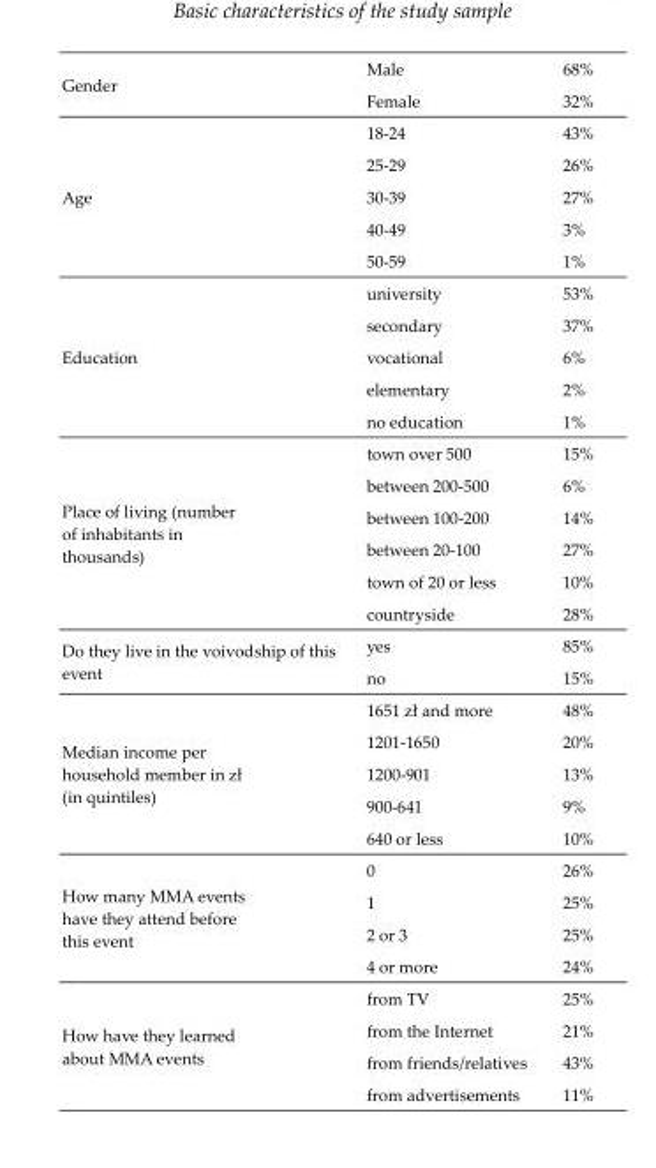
<table><tbody><tr><td rowspan="2">Gender</td><td>Male</td><td>68%</td></tr><tr><td>Female</td><td>32%</td></tr><tr><td rowspan="5">Age</td><td>18-24</td><td>43%</td></tr><tr><td>25-29</td><td>26%</td></tr><tr><td>30-39</td><td>27%</td></tr><tr><td>40-49</td><td>3%</td></tr><tr><td>50-59</td><td>1%</td></tr><tr><td rowspan="5">Education</td><td>university</td><td>53%</td></tr><tr><td>secondary</td><td>37%</td></tr><tr><td>vocational</td><td>6%</td></tr><tr><td>elementary</td><td>2%</td></tr><tr><td>no education</td><td>1%</td></tr><tr><td rowspan="6">Place of living (number of inhabitants in thousands)</td><td>town over 500</td><td>15%</td></tr><tr><td>between 200-500</td><td>6%</td></tr><tr><td>between 100-200</td><td>14%</td></tr><tr><td>between 20-100</td><td>27%</td></tr><tr><td>town of 20 or less</td><td>10%</td></tr><tr><td>countryside</td><td>28%</td></tr><tr><td rowspan="2">Do they live in the voivodship of this event</td><td>yes</td><td>85%</td></tr><tr><td>no</td><td>15%</td></tr><tr><td rowspan="5">Median income per household member in zł (in quintiles)</td><td>1651 zł and more</td><td>48%</td></tr><tr><td>1201-1650</td><td>20%</td></tr><tr><td>1200-901</td><td>13%</td></tr><tr><td>900-641</td><td>9%</td></tr><tr><td>640 or less</td><td>10%</td></tr><tr><td rowspan="4">How many MMA events have they attend before this event</td><td>0</td><td>26%</td></tr><tr><td>1</td><td>25%</td></tr><tr><td>2 or 3</td><td>25%</td></tr><tr><td>4 or more</td><td>24%</td></tr><tr><td rowspan="4">How have they learned about MMA events</td><td>from TV</td><td>25%</td></tr><tr><td>from the Internet</td><td>21%</td></tr><tr><td>from friends/relatives</td><td>43%</td></tr><tr><td>from advertisements</td><td>11%</td></tr></tbody></table>